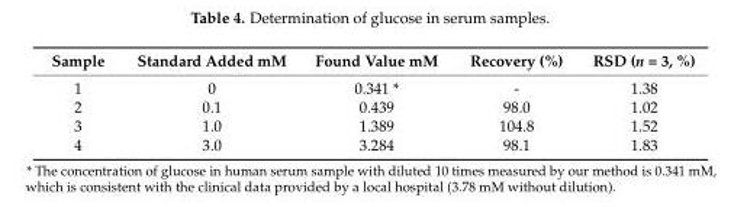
<table><thead><tr><td>Sample</td><td>Standard Added mM</td><td>Found Value mM</td><td>Recovery (%)</td><td>RSD (n = 3, %)</td></tr></thead><tbody><tr><td>1</td><td>0</td><td>0.341 *</td><td>-</td><td>1.38</td></tr><tr><td>2</td><td>0.1</td><td>0.439</td><td>98.0</td><td>1.02</td></tr><tr><td>3</td><td>1.0</td><td>1.389</td><td>104.8</td><td>1.52</td></tr><tr><td>4</td><td>3.0</td><td>3.284</td><td>98.1</td><td>1.83</td></tr></tbody></table>